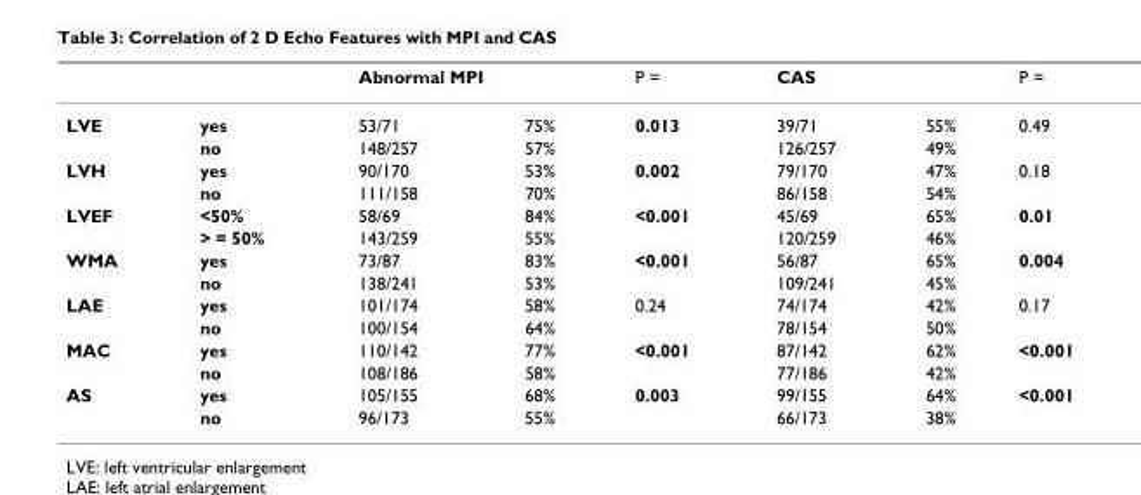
<table><thead><tr><td rowspan="2">LVE</td><td rowspan="2">yes</td><td colspan="2">Abnormal MPI</td><td rowspan="2">P = 0.013</td><td colspan="2">CAS</td><td rowspan="2">P = 0.49</td></tr><tr><td>53/71</td><td>75%</td><td>39/71</td><td>55%</td></tr></thead><tbody><tr><td></td><td>no</td><td>148/257</td><td>57%</td><td></td><td>126/257</td><td>49%</td><td></td></tr><tr><td rowspan="2">LVH</td><td>yes</td><td>90/170</td><td>53%</td><td>0.002</td><td>79/170</td><td>47%</td><td>0.18</td></tr><tr><td>no</td><td>111/158</td><td>70%</td><td></td><td>86/158</td><td>54%</td><td></td></tr><tr><td rowspan="2">LVEF</td><td>&lt;50%</td><td>58/69</td><td>84%</td><td>&lt;0.001</td><td>45/69</td><td>65%</td><td>0.01</td></tr><tr><td>&gt; = 50%</td><td>143/259</td><td>55%</td><td></td><td>120/259</td><td>46%</td><td></td></tr><tr><td rowspan="2">WMA</td><td>yes</td><td>73/87</td><td>83%</td><td>&lt;0.001</td><td>56/87</td><td>65%</td><td>0.004</td></tr><tr><td>no</td><td>138/241</td><td>53%</td><td></td><td>109/241</td><td>45%</td><td></td></tr><tr><td rowspan="2">LAE</td><td>yes</td><td>101/174</td><td>58%</td><td>0.24</td><td>74/174</td><td>42%</td><td>0.17</td></tr><tr><td>no</td><td>100/154</td><td>64%</td><td></td><td>78/154</td><td>50%</td><td></td></tr><tr><td rowspan="2">MAC</td><td>yes</td><td>110/142</td><td>77%</td><td>&lt;0.001</td><td>87/142</td><td>62%</td><td>&lt;0.001</td></tr><tr><td>no</td><td>108/186</td><td>58%</td><td></td><td>77/186</td><td>42%</td><td></td></tr><tr><td rowspan="2">AS</td><td>yes</td><td>105/155</td><td>68%</td><td>0.003</td><td>99/155</td><td>64%</td><td>&lt;0.001</td></tr><tr><td>no</td><td>96/173</td><td>55%</td><td></td><td>66/173</td><td>38%</td><td></td></tr></tbody></table>